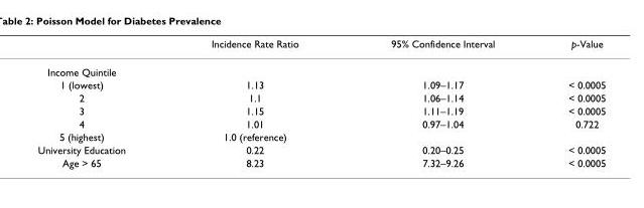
<table><thead><tr><td></td><td>Incidence Rate Ratio</td><td>95% Confidence Interval</td><td>p-Value</td></tr></thead><tbody><tr><td colspan="4">Income Quintile</td></tr><tr><td>1 (lowest)</td><td>1.13</td><td>1.09–1.17</td><td>&lt; 0.0005</td></tr><tr><td>2</td><td>1.1</td><td>1.06–1.14</td><td>&lt; 0.0005</td></tr><tr><td>3</td><td>1.15</td><td>1.11–1.19</td><td>&lt; 0.0005</td></tr><tr><td>4</td><td>1.01</td><td>0.97–1.04</td><td>0.722</td></tr><tr><td>5 (highest)</td><td>1.0 (reference)</td><td></td><td></td></tr><tr><td>University Education</td><td>0.22</td><td>0.20–0.25</td><td>&lt; 0.0005</td></tr><tr><td>Age &gt; 65</td><td>8.23</td><td>7.32–9.26</td><td>&lt; 0.0005</td></tr></tbody></table>